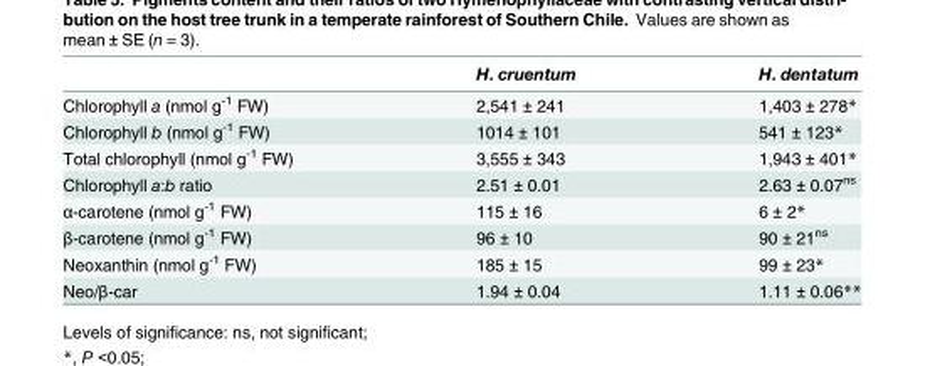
<table><thead><tr><td></td><td>H. cruentum</td><td>H. dentatum</td></tr></thead><tbody><tr><td>Chlorophyll a (nmol g<sup>-1</sup> FW)</td><td>2,541 ± 241</td><td>1,403 ± 278*</td></tr><tr><td>Chlorophyll b (nmol g<sup>-1</sup> FW)</td><td>1014 ± 101</td><td>541 ± 123*</td></tr><tr><td>Total chlorophyll (nmol g<sup>-1</sup> FW)</td><td>3,555 ± 343</td><td>1,943 ± 401*</td></tr><tr><td>Chlorophyll a:b ratio</td><td>2.51 ± 0.01</td><td>2.63 ± 0.07<sup>ns</sup></td></tr><tr><td>α-carotene (nmol g<sup>-1</sup> FW)</td><td>115 ± 16</td><td>6 ± 2*</td></tr><tr><td>β-carotene (nmol g<sup>-1</sup> FW)</td><td>96 ± 10</td><td>90 ± 21<sup>ns</sup></td></tr><tr><td>Neoxanthin (nmol g<sup>-1</sup> FW)</td><td>185 ± 15</td><td>99 ± 23*</td></tr><tr><td>Neo/β-car</td><td>1.94 ± 0.04</td><td>1.11 ± 0.06**</td></tr></tbody></table>